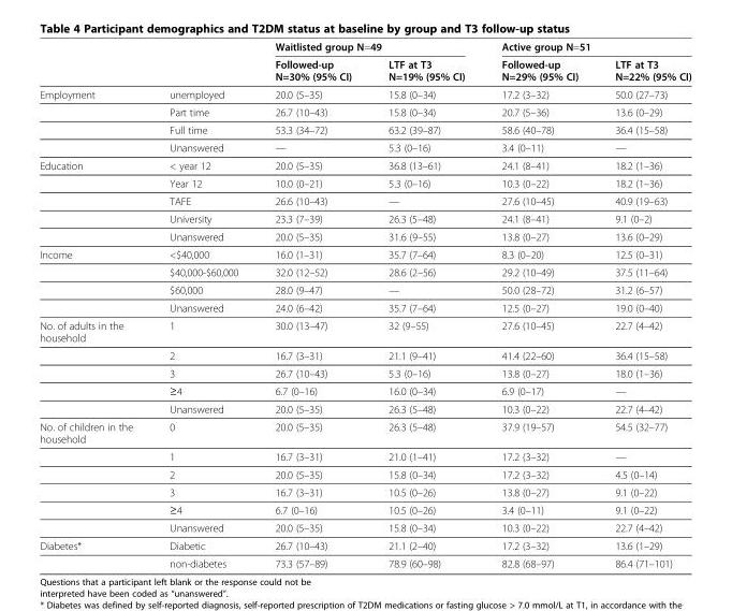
<table><thead><tr><td rowspan="2"></td><td rowspan="2"></td><td colspan="2">Waitlisted group N=49</td><td colspan="2">Active group N=51</td></tr><tr><td>Followed-up N=30% (95% CI)</td><td>LTF at T3 N=19% (95% CI)</td><td>Followed-up N=29% (95% CI)</td><td>LTF at T3 N=22% (95% CI)</td></tr></thead><tbody><tr><td rowspan="4">Employment</td><td>unemployed</td><td>20.0 (5–35)</td><td>15.8 (0–34)</td><td>17.2 (3–32)</td><td>50.0 (27–73)</td></tr><tr><td>Part time</td><td>26.7 (10–43)</td><td>15.8 (0–34)</td><td>20.7 (5–36)</td><td>13.6 (0–29)</td></tr><tr><td>Full time</td><td>53.3 (34–72)</td><td>63.2 (39–87)</td><td>58.6 (40–78)</td><td>36.4 (15–58)</td></tr><tr><td>Unanswered</td><td>—</td><td>5.3 (0–16)</td><td>3.4 (0–11)</td><td>—</td></tr><tr><td rowspan="5">Education</td><td>&lt; year 12</td><td>20.0 (5–35)</td><td>36.8 (13–61)</td><td>24.1 (8–41)</td><td>18.2 (1–36)</td></tr><tr><td>Year 12</td><td>10.0 (0–21)</td><td>5.3 (0–16)</td><td>10.3 (0–22)</td><td>18.2 (1–36)</td></tr><tr><td>TAFE</td><td>26.6 (10–43)</td><td>—</td><td>27.6 (10–45)</td><td>40.9 (19–63)</td></tr><tr><td>University</td><td>23.3 (7–39)</td><td>26.3 (5–48)</td><td>24.1 (8–41)</td><td>9.1 (0–2)</td></tr><tr><td>Unanswered</td><td>20.0 (5–35)</td><td>31.6 (9–55)</td><td>13.8 (0–27)</td><td>13.6 (0–29)</td></tr><tr><td rowspan="4">Income</td><td>&lt;$40,000</td><td>16.0 (1–31)</td><td>35.7 (7–64)</td><td>8.3 (0–20)</td><td>12.5 (0–31)</td></tr><tr><td>$40,000-$60,000</td><td>32.0 (12–52)</td><td>28.6 (2–56)</td><td>29.2 (10–49)</td><td>37.5 (11–64)</td></tr><tr><td>$60,000</td><td>28.0 (9–47)</td><td>—</td><td>50.0 (28–72)</td><td>31.2 (6–57)</td></tr><tr><td>Unanswered</td><td>24.0 (6–42)</td><td>35.7 (7–64)</td><td>12.5 (0–27)</td><td>19.0 (0–40)</td></tr><tr><td rowspan="5">No. of adults in the household</td><td>1</td><td>30.0 (13–47)</td><td>32 (9–55)</td><td>27.6 (10–45)</td><td>22.7 (4–42)</td></tr><tr><td>2</td><td>16.7 (3–31)</td><td>21.1 (9–41)</td><td>41.4 (22–60)</td><td>36.4 (15–58)</td></tr><tr><td>3</td><td>26.7 (10–43)</td><td>5.3 (0–16)</td><td>13.8 (0–27)</td><td>18.0 (1–36)</td></tr><tr><td>≥4</td><td>6.7 (0–16)</td><td>16.0 (0–34)</td><td>6.9 (0–17)</td><td>—</td></tr><tr><td>Unanswered</td><td>20.0 (5–35)</td><td>26.3 (5–48)</td><td>10.3 (0–22)</td><td>22.7 (4–42)</td></tr><tr><td rowspan="6">No. of children in the household</td><td>0</td><td>20.0 (5–35)</td><td>26.3 (5–48)</td><td>37.9 (19–57)</td><td>54.5 (32–77)</td></tr><tr><td>1</td><td>16.7 (3–31)</td><td>21.0 (1–41)</td><td>17.2 (3–32)</td><td>—</td></tr><tr><td>2</td><td>20.0 (5–35)</td><td>15.8 (0–34)</td><td>17.2 (3–32)</td><td>4.5 (0–14)</td></tr><tr><td>3</td><td>16.7 (3–31)</td><td>10.5 (0–26)</td><td>13.8 (0–27)</td><td>9.1 (0–22)</td></tr><tr><td>≥4</td><td>6.7 (0–16)</td><td>10.5 (0–26)</td><td>3.4 (0–11)</td><td>9.1 (0–22)</td></tr><tr><td>Unanswered</td><td>20.0 (5–35)</td><td>15.8 (0–34)</td><td>10.3 (0–22)</td><td>22.7 (4–42)</td></tr><tr><td rowspan="2">Diabetes*</td><td>Diabetic</td><td>26.7 (10–43)</td><td>21.1 (2–40)</td><td>17.2 (3–32)</td><td>13.6 (1–29)</td></tr><tr><td>non-diabetes</td><td>73.3 (57–89)</td><td>78.9 (60–98)</td><td>82.8 (68–97)</td><td>86.4 (71–101)</td></tr></tbody></table>